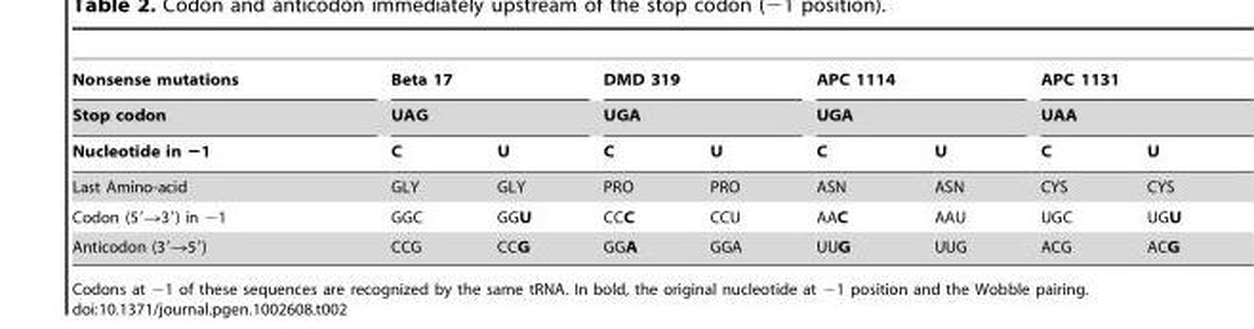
<table><thead><tr><td rowspan="3">Nonsense mutations Stop codon Nucleotide in −1</td><td rowspan="2" colspan="2">Beta 17 UAG</td><td rowspan="2" colspan="2">DMD 319 UGA</td><td rowspan="2" colspan="2">APC 1114 UGA</td><td rowspan="2" colspan="2">APC 1131 UAA</td></tr><tr></tr><tr><td>C</td><td>U</td><td>C</td><td>U</td><td>C</td><td>U</td><td>C</td><td>U</td></tr></thead><tbody><tr><td>Last Amino-acid</td><td>GLY</td><td>GLY</td><td>PRO</td><td>PRO</td><td>ASN</td><td>ASN</td><td>CYS</td><td>CYS</td></tr><tr><td>Codon (5′→3′) in −1</td><td>GGC</td><td>GGU</td><td>CCC</td><td>CCU</td><td>AAC</td><td>AAU</td><td>UGC</td><td>UGU</td></tr><tr><td>Anticodon (3′→5′)</td><td>CCG</td><td>CCG</td><td>GGA</td><td>GGA</td><td>UUG</td><td>UUG</td><td>ACG</td><td>ACG</td></tr></tbody></table>